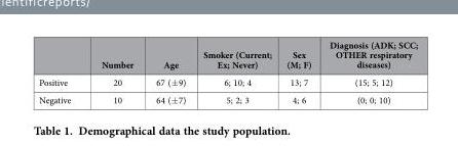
<table><thead><tr><td></td><td>Number</td><td>Age</td><td>Smoker (Current; Ex; Never)</td><td>Sex (M; F)</td><td>Diagnosis (ADK; SCC; OTHER respiratory diseases)</td></tr></thead><tbody><tr><td>Positive</td><td>20</td><td>67 (± 9)</td><td>6; 10; 4</td><td>13; 7</td><td>(15; 5; 12)</td></tr><tr><td>Negative</td><td>10</td><td>64 (± 7)</td><td>5; 2; 3</td><td>4; 6</td><td>(0; 0; 10)</td></tr></tbody></table>